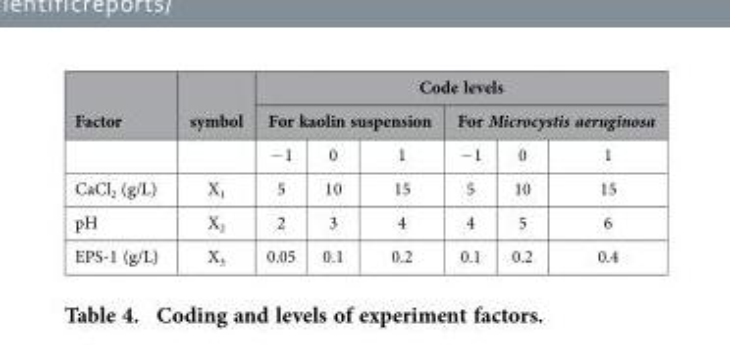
<table><thead><tr><td rowspan="3">Factor</td><td rowspan="3">symbol</td><td colspan="6">Code levels</td></tr><tr><td colspan="3">For kaolin suspension</td><td colspan="3">For Microcystis aeruginosa</td></tr><tr><td>− 1</td><td>0</td><td>1</td><td>− 1</td><td>0</td><td>1</td></tr></thead><tbody><tr><td>CaCl<sub>2</sub> (g/L)</td><td>X<sub>1</sub></td><td>5</td><td>10</td><td>15</td><td>5</td><td>10</td><td>15</td></tr><tr><td>pH</td><td>X<sub>2</sub></td><td>2</td><td>3</td><td>4</td><td>4</td><td>5</td><td>6</td></tr><tr><td>EPS-1 (g/L)</td><td>X<sub>3</sub></td><td>0.05</td><td>0.1</td><td>0.2</td><td>0.1</td><td>0.2</td><td>0.4</td></tr></tbody></table>